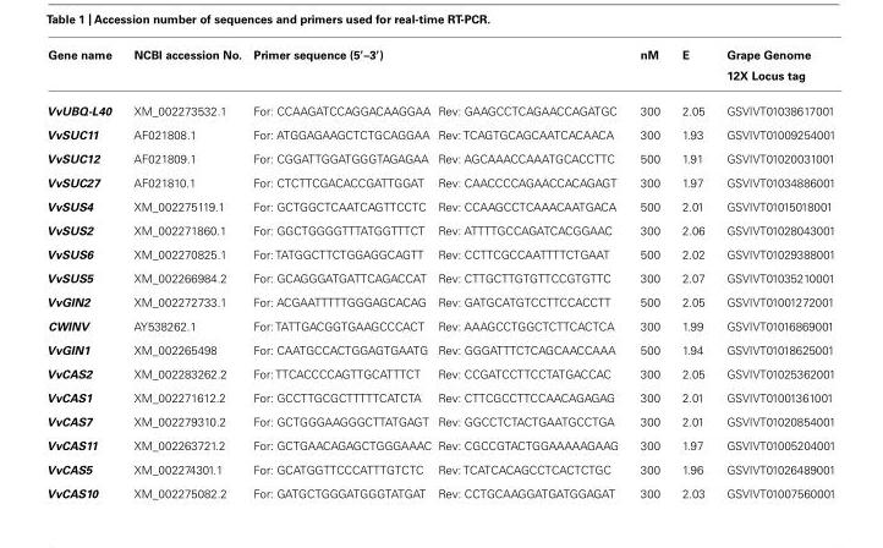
<table><thead><tr><td>Gene name</td><td>NCBI accession No.</td><td>Primer sequence (5′–3′)</td><td>nM E</td><td>Grape Genome 12X Locus tag</td></tr></thead><tbody><tr><td>VvUBQ-L40</td><td>XM_002273532.1</td><td>For: CCAAGATCCAGGACAAGGAA Rev: GAAGCCTCAGAACCAGATGC</td><td>300 2.05</td><td>GSVIVT01038617001</td></tr><tr><td>VvSUC11</td><td>AF021808.1</td><td>For: ATGGAGAAGCTCTGCAGGAA Rev: TCAGTGCAGCAATCACAACA</td><td>300 1.93</td><td>GSVIVT01009254001</td></tr><tr><td>VvSUC12</td><td>AF021809.1</td><td>For: CGGATTGGATGGGTAGAGAA Rev: AGCAAACCAAATGCACCTTC</td><td>500 1.91</td><td>GSVIVT01020031001</td></tr><tr><td>VvSUC27</td><td>AF021810.1</td><td>For: CTCTTCGACACCGATTGGAT Rev: CAACCCCAGAACCACAGAGT</td><td>300 1.97</td><td>GSVIVT01034886001</td></tr><tr><td>VvSUS4</td><td>XM_002275119.1</td><td>For: GCTGGCTCAATCAGTTCCTC Rev: CCAAGCCTCAAACAATGACA</td><td>500 2.01</td><td>GSVIVT01015018001</td></tr><tr><td>VvSUS2</td><td>XM_002271860.1</td><td>For: GGCTGGGGTTTATGGTTTCT Rev: ATTTTGCCAGATCACGGAAC</td><td>300 2.06</td><td>GSVIVT01028043001</td></tr><tr><td>VvSUS6</td><td>XM_002270825.1</td><td>For: TATGGCTTCTGGAGGCAGTT Rev: CCTTCGCCAATTTTCTGAAT</td><td>500 2.02</td><td>GSVIVT01029388001</td></tr><tr><td>VvSUS5</td><td>XM_002266984.2</td><td>For: GCAGGGATGATTCAGACCAT Rev: CTTGCTTGTGTTCCGTGTTC</td><td>300 2.07</td><td>GSVIVT01035210001</td></tr><tr><td>VvGIN2</td><td>XM_002272733.1</td><td>For: ACGAATTTTTGGGAGCACAG Rev: GATGCATGTCCTTCCACCTT</td><td>500 2.05</td><td>GSVIVT01001272001</td></tr><tr><td>CWINV</td><td>AY538262.1</td><td>For: TATTGACGGTGAAGCCCACT Rev: AAAGCCTGGCTCTTCACTCA</td><td>300 1.99</td><td>GSVIVT01016869001</td></tr><tr><td>VvGIN1</td><td>XM_002265498</td><td>For: CAATGCCACTGGAGTGAATG Rev: GGGATTTCTCAGCAACCAAA</td><td>500 1.94</td><td>GSVIVT01018625001</td></tr><tr><td>VvCAS2</td><td>XM_002283262.2</td><td>For: TTCACCCCAGTTGCATTTCT Rev: CCGATCCTTCCTATGACCAC</td><td>300 2.05</td><td>GSVIVT01025362001</td></tr><tr><td>VvCAS1</td><td>XM_002271612.2</td><td>For: GCCTTGCGCTTTTTCATCTA Rev: CTTCGCCTTCCAACAGAGAG</td><td>300 2.01</td><td>GSVIVT01001361001</td></tr><tr><td>VvCAS7</td><td>XM_002279310.2</td><td>For: GCTGGGAAGGGCTTATGAGT Rev: GGCCTCTACTGAATGCCTGA</td><td>300 2.01</td><td>GSVIVT01020854001</td></tr><tr><td>VvCAS11</td><td>XM_002263721.2</td><td>For: GCTGAACAGAGCTGGGAAAC Rev: CGCCGTACTGGAAAAAGAAG</td><td>300 1.97</td><td>GSVIVT01005204001</td></tr><tr><td>VvCAS5</td><td>XM_002274301.1</td><td>For: GCATGGTTCCCATTTGTCTC Rev: TCATCACAGCCTCACTCTGC</td><td>300 1.96</td><td>GSVIVT01026489001</td></tr><tr><td>VvCAS10</td><td>XM_002275082.2</td><td>For: GATGCTGGGATGGGTATGAT Rev: CCTGCAAGGATGATGGAGAT</td><td>300 2.03</td><td>GSVIVT01007560001</td></tr></tbody></table>